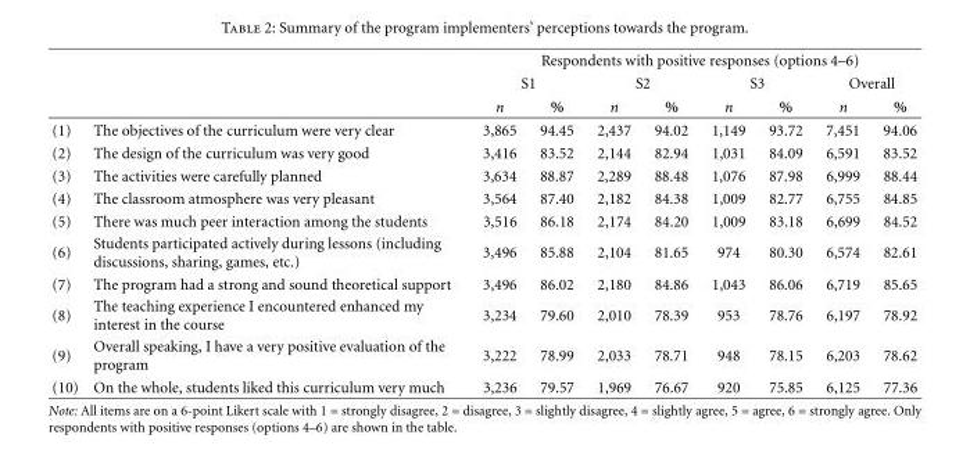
<table><thead><tr><td rowspan="3"></td><td rowspan="3"></td><td colspan="8">Respondents with positive responses (options 4–6)</td></tr><tr><td colspan="2">S1</td><td colspan="2">S2</td><td colspan="2">S3</td><td colspan="2">Overall</td></tr><tr><td>n</td><td>%</td><td>n</td><td>%</td><td>n</td><td>%</td><td>n</td><td>%</td></tr></thead><tbody><tr><td>(1)</td><td>The objectives of the curriculum were very clear</td><td>3,865</td><td>94.45</td><td>2,437</td><td>94.02</td><td>1,149</td><td>93.72</td><td>7,451</td><td>94.06</td></tr><tr><td>(2)</td><td>The design of the curriculum was very good</td><td>3,416</td><td>83.52</td><td>2,144</td><td>82.94</td><td>1,031</td><td>84.09</td><td>6,591</td><td>83.52</td></tr><tr><td>(3)</td><td>The activities were carefully planned</td><td>3,634</td><td>88.87</td><td>2,289</td><td>88.48</td><td>1,076</td><td>87.98</td><td>6,999</td><td>88.44</td></tr><tr><td>(4)</td><td>The classroom atmosphere was very pleasant</td><td>3,564</td><td>87.40</td><td>2,182</td><td>84.38</td><td>1,009</td><td>82.77</td><td>6,755</td><td>84.85</td></tr><tr><td>(5)</td><td>There was much peer interaction among the students</td><td>3,516</td><td>86.18</td><td>2,174</td><td>84.20</td><td>1,009</td><td>83.18</td><td>6,699</td><td>84.52</td></tr><tr><td>(6)</td><td>Students participated actively during lessons (including discussions, sharing, games, etc.)</td><td>3,496</td><td>85.88</td><td>2,104</td><td>81.65</td><td>974</td><td>80.30</td><td>6,574</td><td>82.61</td></tr><tr><td>(7)</td><td>The program had a strong and sound theoretical support</td><td>3,496</td><td>86.02</td><td>2,180</td><td>84.86</td><td>1,043</td><td>86.06</td><td>6,719</td><td>85.65</td></tr><tr><td>(8)</td><td>The teaching experience I encountered enhanced my interest in the course</td><td>3,234</td><td>79.60</td><td>2,010</td><td>78.39</td><td>953</td><td>78.76</td><td>6,197</td><td>78.92</td></tr><tr><td>(9)</td><td>Overall speaking, I have a very positive evaluation of the program</td><td>3,222</td><td>78.99</td><td>2,033</td><td>78.71</td><td>948</td><td>78.15</td><td>6,203</td><td>78.62</td></tr><tr><td>(10)</td><td>On the whole, students liked this curriculum very much</td><td>3,236</td><td>79.57</td><td>1,969</td><td>76.67</td><td>920</td><td>75.85</td><td>6,125</td><td>77.36</td></tr></tbody></table>